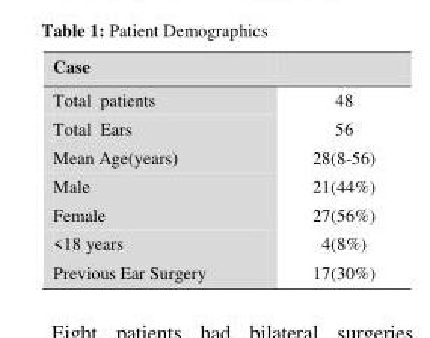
<table><thead><tr><td>Case</td><td></td></tr></thead><tbody><tr><td>Total patients</td><td>48</td></tr><tr><td>Total Ears</td><td>56</td></tr><tr><td>Mean Age(years)</td><td>28(8-56)</td></tr><tr><td>Male</td><td>21(44%)</td></tr><tr><td>Female</td><td>27(56%)</td></tr><tr><td>&lt;18 years</td><td>4(8%)</td></tr><tr><td>Previous Ear Surgery</td><td>17(30%)</td></tr></tbody></table>